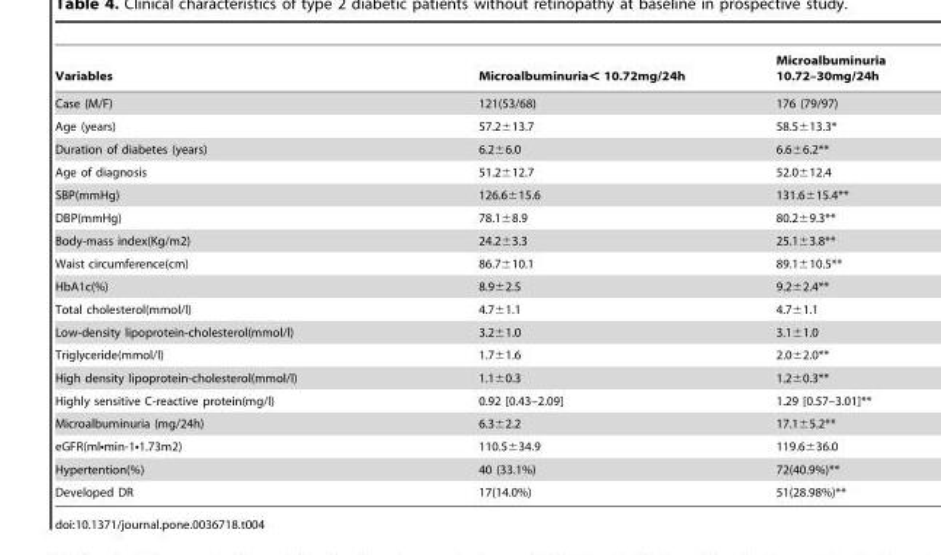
<table><thead><tr><td>Variables</td><td>Microalbuminuria&lt; 10.72mg/24h</td><td>Microalbuminuria 10.72–30mg/24h</td></tr></thead><tbody><tr><td>Case (M/F)</td><td>121(53/68)</td><td>176 (79/97)</td></tr><tr><td>Age (years)</td><td>57.2±13.7</td><td>58.5±13.3*</td></tr><tr><td>Duration of diabetes (years)</td><td>6.2±6.0</td><td>6.6±6.2**</td></tr><tr><td>Age of diagnosis</td><td>51.2±12.7</td><td>52.0±12.4</td></tr><tr><td>SBP(mmHg)</td><td>126.6±15.6</td><td>131.6±15.4**</td></tr><tr><td>DBP(mmHg)</td><td>78.1±8.9</td><td>80.2±9.3**</td></tr><tr><td>Body-mass index(Kg/m2)</td><td>24.2±3.3</td><td>25.1±3.8**</td></tr><tr><td>Waist circumference(cm)</td><td>86.7±10.1</td><td>89.1±10.5**</td></tr><tr><td>HbA1c(%)</td><td>8.9±2.5</td><td>9.2±2.4**</td></tr><tr><td>Total cholesterol(mmol/l)</td><td>4.7±1.1</td><td>4.7±1.1</td></tr><tr><td>Low-density lipoprotein-cholesterol(mmol/l)</td><td>3.2±1.0</td><td>3.1±1.0</td></tr><tr><td>Triglyceride(mmol/l)</td><td>1.7±1.6</td><td>2.0±2.0**</td></tr><tr><td>High density lipoprotein-cholesterol(mmol/l)</td><td>1.1±0.3</td><td>1.2±0.3**</td></tr><tr><td>Highly sensitive C-reactive protein(mg/l)</td><td>0.92 [0.43–2.09]</td><td>1.29 [0.57–3.01]**</td></tr><tr><td>Microalbuminuria (mg/24h)</td><td>6.3±2.2</td><td>17.1±5.2**</td></tr><tr><td>eGFR(ml•min-1•1.73m2)</td><td>110.5±34.9</td><td>119.6±36.0</td></tr><tr><td>Hypertention(%)</td><td>40 (33.1%)</td><td>72(40.9%)**</td></tr><tr><td>Developed DR</td><td>17(14.0%)</td><td>51(28.98%)**</td></tr></tbody></table>